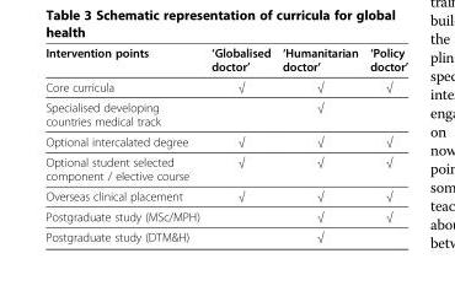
<table><thead><tr><td>Intervention points</td><td>‘Globalised doctor’</td><td>‘Humanitarian doctor’</td><td>‘Policy doctor’</td></tr></thead><tbody><tr><td>Core curricula</td><td>√</td><td>√</td><td>√</td></tr><tr><td>Specialised developing countries medical track</td><td></td><td>√</td><td></td></tr><tr><td>Optional intercalated degree</td><td>√</td><td>√</td><td>√</td></tr><tr><td>Optional student selected component / elective course</td><td>√</td><td>√</td><td>√</td></tr><tr><td>Overseas clinical placement</td><td>√</td><td>√</td><td>√</td></tr><tr><td>Postgraduate study (MSc/MPH)</td><td></td><td>√</td><td>√</td></tr><tr><td>Postgraduate study (DTM&amp;H)</td><td></td><td>√</td><td></td></tr></tbody></table>